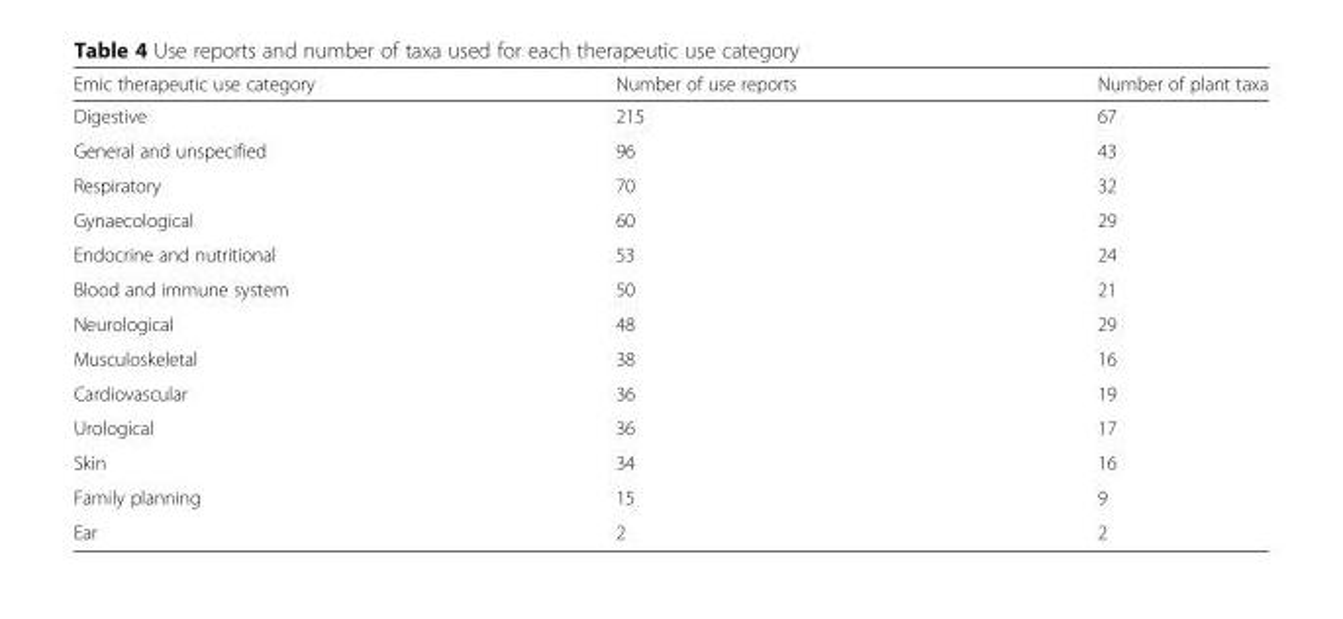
<table><thead><tr><td>Emic therapeutic use category</td><td>Number of use reports</td><td>Number of plant taxa</td></tr></thead><tbody><tr><td>Digestive</td><td>215</td><td>67</td></tr><tr><td>General and unspecified</td><td>96</td><td>43</td></tr><tr><td>Respiratory</td><td>70</td><td>32</td></tr><tr><td>Gynaecological</td><td>60</td><td>29</td></tr><tr><td>Endocrine and nutritional</td><td>53</td><td>24</td></tr><tr><td>Blood and immune system</td><td>50</td><td>21</td></tr><tr><td>Neurological</td><td>48</td><td>29</td></tr><tr><td>Musculoskeletal</td><td>38</td><td>16</td></tr><tr><td>Cardiovascular</td><td>36</td><td>19</td></tr><tr><td>Urological</td><td>36</td><td>17</td></tr><tr><td>Skin</td><td>34</td><td>16</td></tr><tr><td>Family planning</td><td>15</td><td>9</td></tr><tr><td>Ear</td><td>2</td><td>2</td></tr></tbody></table>